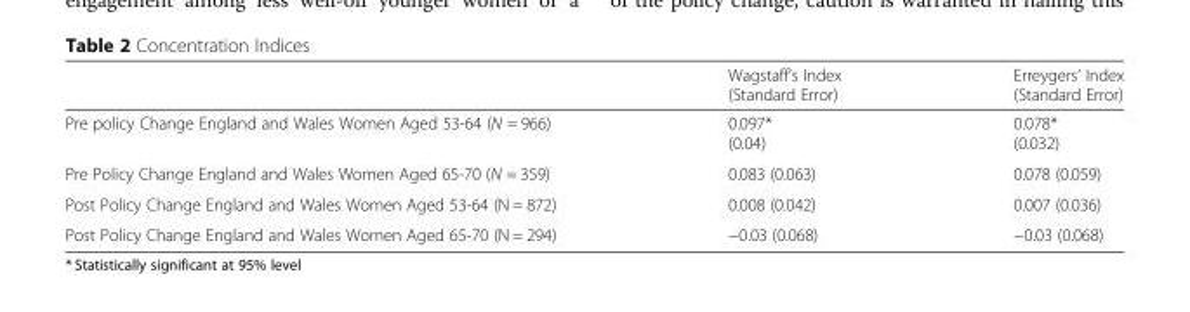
<table><thead><tr><td></td><td>Wagstaff’s Index (Standard Error)</td><td>Erreygers’ Index (Standard Error)</td></tr></thead><tbody><tr><td>Pre policy Change England and Wales Women Aged 53-64 (N = 966)</td><td>0.097* (0.04)</td><td>0.078* (0.032)</td></tr><tr><td>Pre Policy Change England and Wales Women Aged 65-70 (N = 359)</td><td>0.083 (0.063)</td><td>0.078 (0.059)</td></tr><tr><td>Post Policy Change England and Wales Women Aged 53-64 (N = 872)</td><td>0.008 (0.042)</td><td>0.007 (0.036)</td></tr><tr><td>Post Policy Change England and Wales Women Aged 65-70 (N = 294)</td><td>−0.03 (0.068)</td><td>−0.03 (0.068)</td></tr></tbody></table>